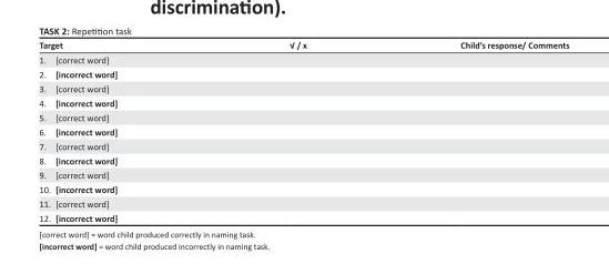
<table><thead><tr><td>Target</td><td>√ / x</td><td>Child’s response/ Comments</td></tr></thead><tbody><tr><td colspan="3">1. [correct word]</td></tr><tr><td colspan="3">2. [incorrect word]</td></tr><tr><td colspan="3">3. [correct word]</td></tr><tr><td colspan="3">4. [incorrect word]</td></tr><tr><td colspan="3">5. [correct word]</td></tr><tr><td colspan="3">6. [incorrect word]</td></tr><tr><td colspan="3">7. [correct word]</td></tr><tr><td colspan="3">8. [incorrect word]</td></tr><tr><td colspan="3">9. [correct word]</td></tr><tr><td colspan="3">10. [incorrect word]</td></tr><tr><td colspan="3">11. [correct word]</td></tr><tr><td>12. [incorrect word]</td><td></td><td></td></tr></tbody></table>